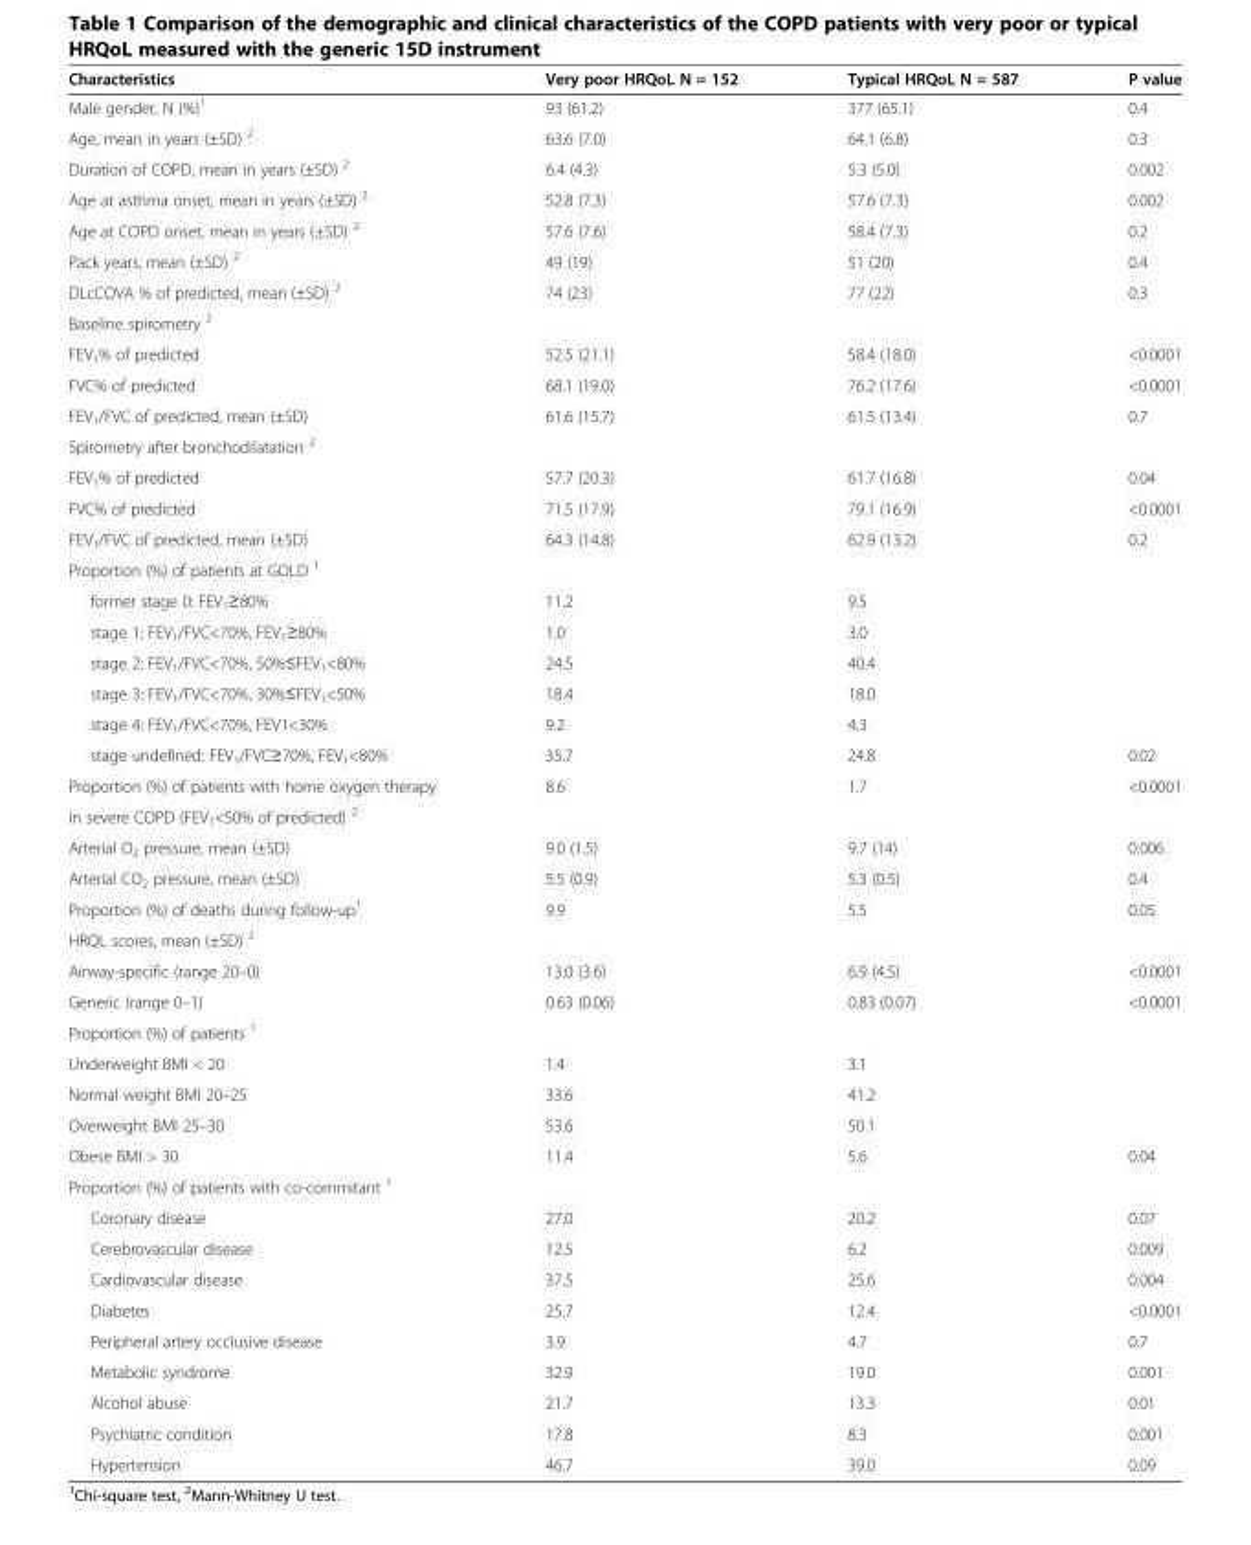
<table><thead><tr><td>Characteristics</td><td>Very poor HRQoL N = 152</td><td>Typical HRQoL N = 587</td><td>P value</td></tr></thead><tbody><tr><td>Male gender, N (%)<sup>1</sup></td><td>93 (61.2)</td><td>377 (65.1)</td><td>0.4</td></tr><tr><td>Age, mean in years (±SD) <sup>2</sup></td><td>63.6 (7.0)</td><td>64.1 (6.8)</td><td>0.3</td></tr><tr><td>Duration of COPD, mean in years (±SD) <sup>2</sup></td><td>6.4 (4.3)</td><td>5.3 (5.0)</td><td>0.002</td></tr><tr><td>Age at asthma onset, mean in years (±SD) <sup>2</sup></td><td>52.8 (7.3)</td><td>57.6 (7.3)</td><td>0.002</td></tr><tr><td>Age at COPD onset, mean in years (±SD) <sup>2</sup></td><td>57.6 (7.6)</td><td>58.4 (7.3)</td><td>0.2</td></tr><tr><td>Pack years, mean (±SD) <sup>2</sup></td><td>49 (19)</td><td>51 (20)</td><td>0.4</td></tr><tr><td>DLcCOVA % of predicted, mean (±SD) <sup>2</sup></td><td>74 (23)</td><td>77 (22)</td><td>0.3</td></tr><tr><td colspan="4">Baseline spirometry <sup>2</sup></td></tr><tr><td>FEV<sub>1</sub>% of predicted</td><td>52.5 (21.1)</td><td>58.4 (18.0)</td><td>&lt;0.0001</td></tr><tr><td>FVC% of predicted</td><td>68.1 (19.0)</td><td>76.2 (17.6)</td><td>&lt;0.0001</td></tr><tr><td>FEV<sub>1</sub>/FVC of predicted, mean (±SD)</td><td>61.6 (15.7)</td><td>61.5 (13.4)</td><td>0.7</td></tr><tr><td colspan="4">Spirometry after bronchodilatation <sup>2</sup></td></tr><tr><td>FEV<sub>1</sub>% of predicted</td><td>57.7 (20.3)</td><td>61.7 (16.8)</td><td>0.04</td></tr><tr><td>FVC% of predicted</td><td>71.5 (17.9)</td><td>79.1 (16.9)</td><td>&lt;0.0001</td></tr><tr><td>FEV<sub>1</sub>/FVC of predicted, mean (±SD)</td><td>64.3 (14.8)</td><td>62.9 (13.2)</td><td>0.2</td></tr><tr><td colspan="4">Proportion (%) of patients at GOLD <sup>1</sup></td></tr><tr><td>former stage 0: FEV<sub>1</sub>≥80%</td><td>11.2</td><td>9.5</td><td></td></tr><tr><td>stage 1: FEV<sub>1</sub>/FVC&lt;70%, FEV<sub>1</sub>≥80%</td><td>1.0</td><td>3.0</td><td></td></tr><tr><td>stage 2: FEV<sub>1</sub>/FVC&lt;70%, 50%≤FEV<sub>1</sub>&lt;80%</td><td>24.5</td><td>40.4</td><td></td></tr><tr><td>stage 3: FEV<sub>1</sub>/FVC&lt;70%, 30%≤FEV<sub>1</sub>&lt;50%</td><td>18.4</td><td>18.0</td><td></td></tr><tr><td>stage 4: FEV<sub>1</sub>/FVC&lt;70%, FEV1&lt;30%</td><td>9.2</td><td>4.3</td><td></td></tr><tr><td>stage undefined: FEV<sub>1</sub>/FVC≥70%, FEV<sub>1</sub>&lt;80%</td><td>35.7</td><td>24.8</td><td>0.02</td></tr><tr><td>Proportion (%) of patients with home oxygen therapy</td><td>8.6</td><td>1.7</td><td>&lt;0.0001</td></tr><tr><td colspan="4">In severe COPD (FEV<sub>1</sub>&lt;50% of predicted) <sup>2</sup></td></tr><tr><td>Arterial O<sub>2</sub> pressure, mean (±SD)</td><td>9.0 (1.5)</td><td>9.7 (14)</td><td>0.006</td></tr><tr><td>Arterial CO<sub>2</sub> pressure, mean (±SD)</td><td>5.5 (0.9)</td><td>5.3 (0.5)</td><td>0.4</td></tr><tr><td>Proportion (%) of deaths during follow-up<sup>1</sup></td><td>9.9</td><td>5.5</td><td>0.05</td></tr><tr><td colspan="4">HRQL scores, mean (±SD) <sup>2</sup></td></tr><tr><td>Airway-specific (range 20–0)</td><td>13.0 (3.6)</td><td>6.9 (4.5)</td><td>&lt;0.0001</td></tr><tr><td>Generic (range 0–1)</td><td>0.63 (0.06)</td><td>0.83 (0.07)</td><td>&lt;0.0001</td></tr><tr><td colspan="4">Proportion (%) of patients <sup>1</sup></td></tr><tr><td>Underweight BMI &lt; 20</td><td>1.4</td><td>3.1</td><td></td></tr><tr><td>Normal weight BMI 20–25</td><td>33.6</td><td>41.2</td><td></td></tr><tr><td>Overweight BMI 25–30</td><td>53.6</td><td>50.1</td><td></td></tr><tr><td>Obese BMI &gt; 30</td><td>11.4</td><td>5.6</td><td>0.04</td></tr><tr><td colspan="4">Proportion (%) of patients with co-commitant <sup>1</sup></td></tr><tr><td>Coronary disease</td><td>27.0</td><td>20.2</td><td>0.07</td></tr><tr><td>Cerebrovascular disease</td><td>12.5</td><td>6.2</td><td>0.009</td></tr><tr><td>Cardiovascular disease</td><td>37.5</td><td>25.6</td><td>0.004</td></tr><tr><td>Diabetes</td><td>25.7</td><td>12.4</td><td>&lt;0.0001</td></tr><tr><td>Peripheral artery occlusive disease</td><td>3.9</td><td>4.7</td><td>0.7</td></tr><tr><td>Metabolic syndrome</td><td>32.9</td><td>19.0</td><td>0.001</td></tr><tr><td>Alcohol abuse</td><td>21.7</td><td>13.3</td><td>0.01</td></tr><tr><td>Psychiatric condition</td><td>17.8</td><td>8.3</td><td>0.001</td></tr><tr><td>Hypertension</td><td>46.7</td><td>39.0</td><td>0.09</td></tr></tbody></table>